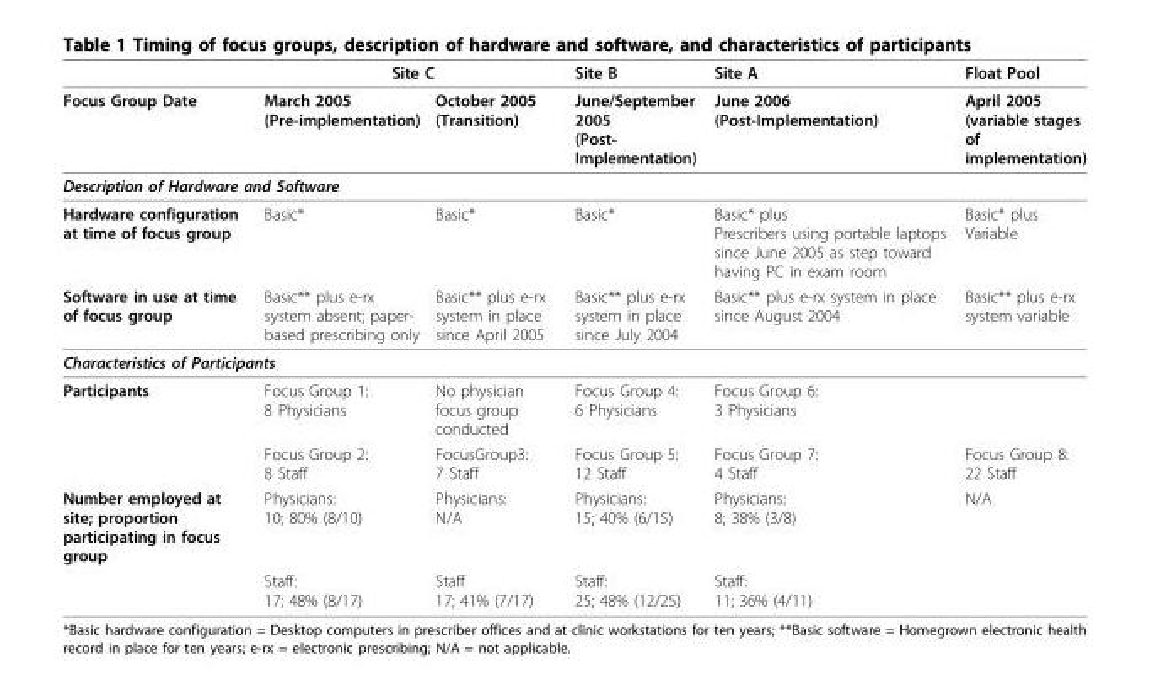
<table><thead><tr><td rowspan="2">Focus Group Date</td><td colspan="2">Site C</td><td rowspan="2">Site B June/September 2005 (Post- Implementation)</td><td rowspan="2">Site A June 2006 (Post-Implementation)</td><td rowspan="2">Float Pool April 2005 (variable stages of implementation)</td></tr><tr><td>March 2005 (Pre-implementation)</td><td>October 2005 (Transition)</td></tr></thead><tbody><tr><td colspan="6">Description of Hardware and Software</td></tr><tr><td>Hardware configuration at time of focus group</td><td>Basic*</td><td>Basic*</td><td>Basic*</td><td>Basic* plus Prescribers using portable laptops since June 2005 as step toward having PC in exam room</td><td>Basic* plus Variable</td></tr><tr><td>Software in use at time of focus group</td><td>Basic** plus e-rx system absent; paper- based prescribing only</td><td>Basic** plus e-rx system in place since April 2005</td><td>Basic** plus e-rx system in place since July 2004</td><td>Basic** plus e-rx system in place since August 2004</td><td>Basic** plus e-rx system variable</td></tr><tr><td colspan="6">Characteristics of Participants</td></tr><tr><td rowspan="2">Participants</td><td>Focus Group 1: 8 Physicians</td><td>No physician focus group conducted</td><td>Focus Group 4: 6 Physicians</td><td>Focus Group 6: 3 Physicians</td><td></td></tr><tr><td>Focus Group 2: 8 Staff</td><td>FocusGroup3: 7 Staff</td><td>Focus Group 5: 12 Staff</td><td>Focus Group 7: 4 Staff</td><td>Focus Group 8: 22 Staff</td></tr><tr><td rowspan="2">Number employed at site; proportion participating in focus group</td><td>Physicians: 10; 80% (8/10)</td><td>Physicians: N/A</td><td>Physicians: 15; 40% (6/15)</td><td>Physicians: 8; 38% (3/8)</td><td>N/A</td></tr><tr><td>Staff: 17; 48% (8/17)</td><td>Staff 17; 41% (7/17)</td><td>Staff: 25; 48% (12/25)</td><td>Staff: 11; 36% (4/11)</td><td></td></tr></tbody></table>